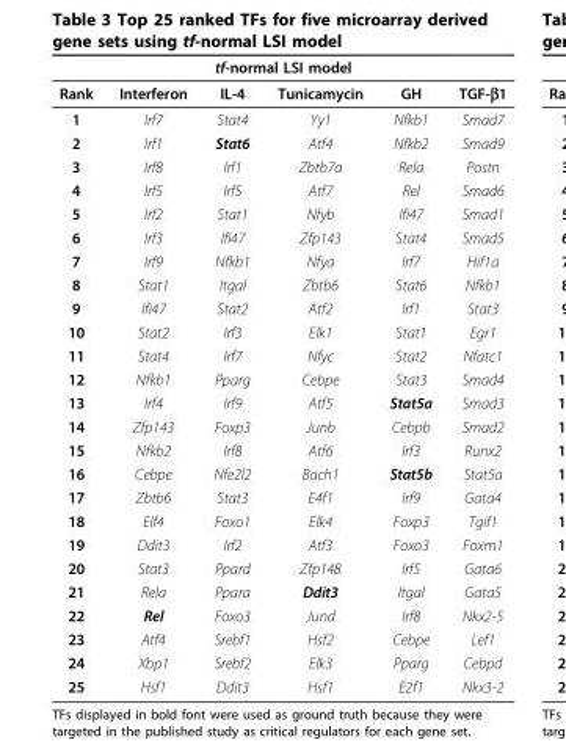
<table><thead><tr><td colspan="6">tf-normal LSI model</td></tr><tr><td>Rank</td><td>Interferon</td><td>IL-4</td><td>Tunicamycin</td><td>GH</td><td>TGF-β1</td></tr></thead><tbody><tr><td>1</td><td>Irf7</td><td>Stat4</td><td>Yy1</td><td>Nfkb1</td><td>Smad7</td></tr><tr><td>2</td><td>Irf1</td><td>Stat6</td><td>Atf4</td><td>Nfkb2</td><td>Smad9</td></tr><tr><td>3</td><td>Irf8</td><td>Irf1</td><td>Zbtb7a</td><td>Rela</td><td>Postn</td></tr><tr><td>4</td><td>Irf5</td><td>Irf5</td><td>Atf7</td><td>Rel</td><td>Smad6</td></tr><tr><td>5</td><td>Irf2</td><td>Stat1</td><td>Nfyb</td><td>Ifi47</td><td>Smad1</td></tr><tr><td>6</td><td>Irf3</td><td>Ifi47</td><td>Zfp143</td><td>Stat4</td><td>Smad5</td></tr><tr><td>7</td><td>Irf9</td><td>Nfkb1</td><td>Nfya</td><td>Irf7</td><td>Hif1a</td></tr><tr><td>8</td><td>Stat1</td><td>Itgal</td><td>Zbtb6</td><td>Stat6</td><td>Nfkb1</td></tr><tr><td>9</td><td>Ifi47</td><td>Stat2</td><td>Atf2</td><td>Irf1</td><td>Stat3</td></tr><tr><td>10</td><td>Stat2</td><td>Irf3</td><td>Elk1</td><td>Stat1</td><td>Egr1</td></tr><tr><td>11</td><td>Stat4</td><td>Irf7</td><td>Nfyc</td><td>Stat2</td><td>Nfatc1</td></tr><tr><td>12</td><td>Nfkb1</td><td>Pparg</td><td>Cebpe</td><td>Stat3</td><td>Smad4</td></tr><tr><td>13</td><td>Irf4</td><td>Irf9</td><td>Atf5</td><td>Stat5a</td><td>Smad3</td></tr><tr><td>14</td><td>Zfp143</td><td>Foxp3</td><td>Junb</td><td>Cebpb</td><td>Smad2</td></tr><tr><td>15</td><td>Nfkb2</td><td>Irf8</td><td>Atf6</td><td>Irf3</td><td>Runx2</td></tr><tr><td>16</td><td>Cebpe</td><td>Nfe2l2</td><td>Bach1</td><td>Stat5b</td><td>Stat5a</td></tr><tr><td>17</td><td>Zbtb6</td><td>Stat3</td><td>E4f1</td><td>Irf9</td><td>Gata4</td></tr><tr><td>18</td><td>Elf4</td><td>Foxo1</td><td>Elk4</td><td>Foxp3</td><td>Tgif1</td></tr><tr><td>19</td><td>Ddit3</td><td>Irf2</td><td>Atf3</td><td>Foxo3</td><td>Foxm1</td></tr><tr><td>20</td><td>Stat3</td><td>Ppard</td><td>Zfp148</td><td>Irf5</td><td>Gata6</td></tr><tr><td>21</td><td>Rela</td><td>Ppara</td><td>Ddit3</td><td>Itgal</td><td>Gata5</td></tr><tr><td>22</td><td>Rel</td><td>Foxo3</td><td>Jund</td><td>Irf8</td><td>Nkx2-5</td></tr><tr><td>23</td><td>Atf4</td><td>Srebf1</td><td>Hsf2</td><td>Cebpe</td><td>Lef1</td></tr><tr><td>24</td><td>Xbp1</td><td>Srebf2</td><td>Elk3</td><td>Pparg</td><td>Cebpd</td></tr><tr><td>25</td><td>Hsf1</td><td>Ddit3</td><td>Hsf1</td><td>E2f1</td><td>Nkx3-2</td></tr></tbody></table>